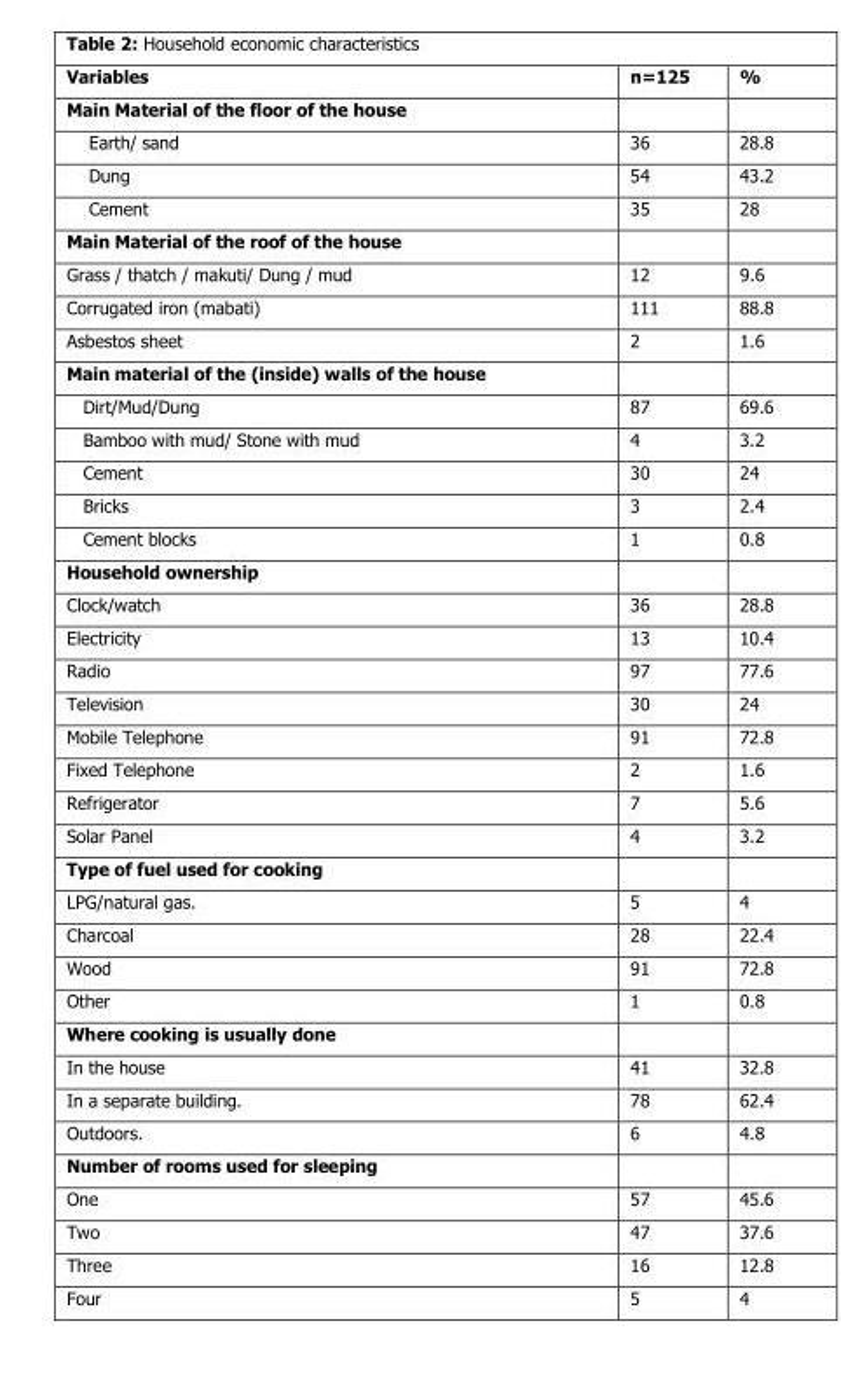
<table><thead><tr><td>Variables</td><td>n=125</td><td>%</td></tr></thead><tbody><tr><td colspan="3">Main Material of the floor of the house</td></tr><tr><td>Earth/ sand</td><td>36</td><td>28.8</td></tr><tr><td>Dung</td><td>54</td><td>43.2</td></tr><tr><td>Cement</td><td>35</td><td>28</td></tr><tr><td colspan="3">Main Material of the roof of the house</td></tr><tr><td>Grass / thatch / makuti/ Dung / mud</td><td>12</td><td>9.6</td></tr><tr><td>Corrugated iron (mabati)</td><td>111</td><td>88.8</td></tr><tr><td>Asbestos sheet</td><td>2</td><td>1.6</td></tr><tr><td colspan="3">Main material of the (inside) walls of the house</td></tr><tr><td>Dirt/Mud/Dung</td><td>87</td><td>69.6</td></tr><tr><td>Bamboo with mud/ Stone with mud</td><td>4</td><td>3.2</td></tr><tr><td>Cement</td><td>30</td><td>24</td></tr><tr><td>Bricks</td><td>3</td><td>2.4</td></tr><tr><td>Cement blocks</td><td>1</td><td>0.8</td></tr><tr><td colspan="3">Household ownership</td></tr><tr><td>Clock/watch</td><td>36</td><td>28.8</td></tr><tr><td>Electricity</td><td>13</td><td>10.4</td></tr><tr><td>Radio</td><td>97</td><td>77.6</td></tr><tr><td>Television</td><td>30</td><td>24</td></tr><tr><td>Mobile Telephone</td><td>91</td><td>72.8</td></tr><tr><td>Fixed Telephone</td><td>2</td><td>1.6</td></tr><tr><td>Refrigerator</td><td>7</td><td>5.6</td></tr><tr><td>Solar Panel</td><td>4</td><td>3.2</td></tr><tr><td colspan="3">Type of fuel used for cooking</td></tr><tr><td>LPG/natural gas.</td><td>5</td><td>4</td></tr><tr><td>Charcoal</td><td>28</td><td>22.4</td></tr><tr><td>Wood</td><td>91</td><td>72.8</td></tr><tr><td>Other</td><td>1</td><td>0.8</td></tr><tr><td colspan="3">Where cooking is usually done</td></tr><tr><td>In the house</td><td>41</td><td>32.8</td></tr><tr><td>In a separate building.</td><td>78</td><td>62.4</td></tr><tr><td>Outdoors.</td><td>6</td><td>4.8</td></tr><tr><td colspan="3">Number of rooms used for sleeping</td></tr><tr><td>One</td><td>57</td><td>45.6</td></tr><tr><td>Two</td><td>47</td><td>37.6</td></tr><tr><td>Three</td><td>16</td><td>12.8</td></tr><tr><td>Four</td><td>5</td><td>4</td></tr></tbody></table>